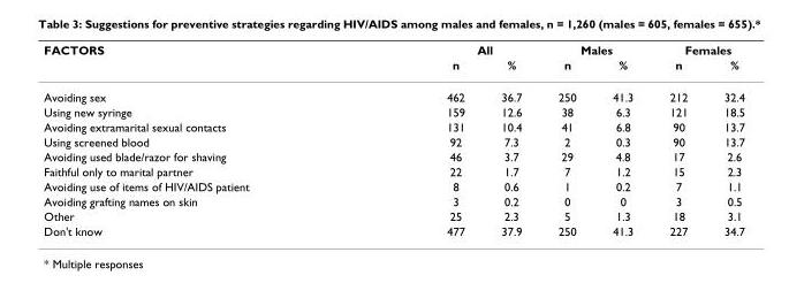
<table><thead><tr><td rowspan="2">FACTORS</td><td colspan="2">All</td><td colspan="2">Males</td><td colspan="2">Females</td></tr><tr><td>n</td><td>%</td><td>n</td><td>%</td><td>n</td><td>%</td></tr></thead><tbody><tr><td>Avoiding sex</td><td>462</td><td>36.7</td><td>250</td><td>41.3</td><td>212</td><td>32.4</td></tr><tr><td>Using new syringe</td><td>159</td><td>12.6</td><td>38</td><td>6.3</td><td>121</td><td>18.5</td></tr><tr><td>Avoiding extramarital sexual contacts</td><td>131</td><td>10.4</td><td>41</td><td>6.8</td><td>90</td><td>13.7</td></tr><tr><td>Using screened blood</td><td>92</td><td>7.3</td><td>2</td><td>0.3</td><td>90</td><td>13.7</td></tr><tr><td>Avoiding used blade/razor for shaving</td><td>46</td><td>3.7</td><td>29</td><td>4.8</td><td>17</td><td>2.6</td></tr><tr><td>Faithful only to marital partner</td><td>22</td><td>1.7</td><td>7</td><td>1.2</td><td>15</td><td>2.3</td></tr><tr><td>Avoiding use of items of HIV/AIDS patient</td><td>8</td><td>0.6</td><td>1</td><td>0.2</td><td>7</td><td>1.1</td></tr><tr><td>Avoiding grafting names on skin</td><td>3</td><td>0.2</td><td>0</td><td>0</td><td>3</td><td>0.5</td></tr><tr><td>Other</td><td>25</td><td>2.3</td><td>5</td><td>1.3</td><td>18</td><td>3.1</td></tr><tr><td>Don&#x27;t know</td><td>477</td><td>37.9</td><td>250</td><td>41.3</td><td>227</td><td>34.7</td></tr></tbody></table>